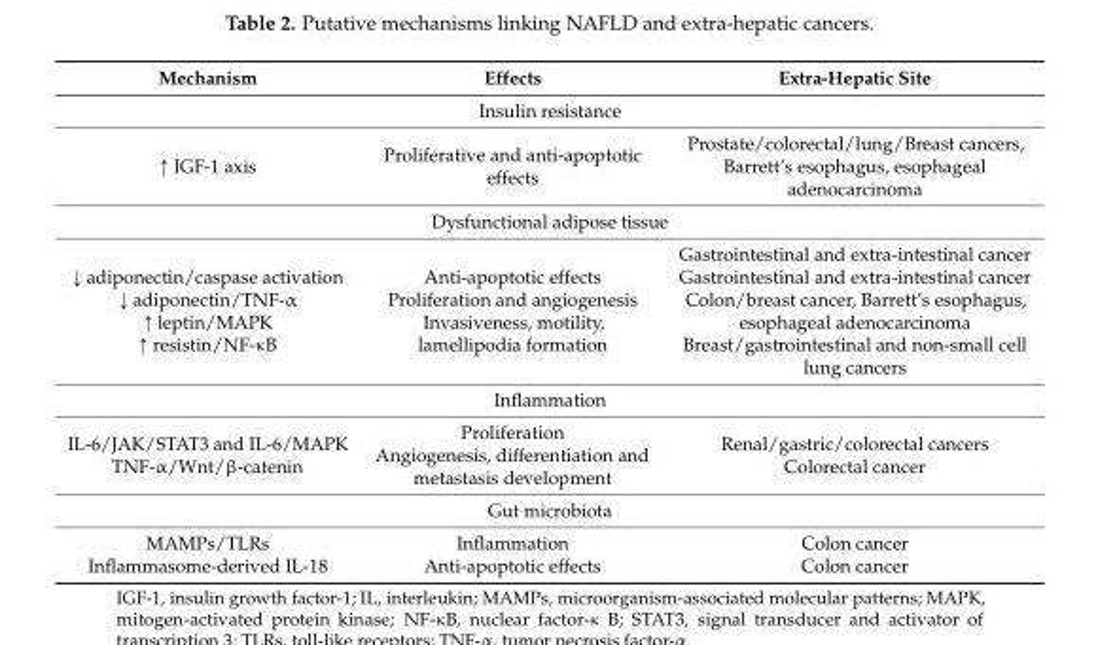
<table><thead><tr><td>Mechanism</td><td>Effects</td><td>Extra-Hepatic Site</td></tr></thead><tbody><tr><td colspan="3">Insulin resistance</td></tr><tr><td>↑ IGF-1 axis</td><td>Proliferative and anti-apoptotic effects</td><td>Prostate/colorectal/lung/Breast cancers, Barrett’s esophagus, esophageal adenocarcinoma</td></tr><tr><td colspan="3">Dysfunctional adipose tissue</td></tr><tr><td>↓ adiponectin/caspase activation ↓ adiponectin/TNF-α ↑ leptin/MAPK ↑ resistin/NF-κB</td><td>Anti-apoptotic effects Proliferation and angiogenesis Invasiveness, motility, lamellipodia formation</td><td>Gastrointestinal and extra-intestinal cancer Gastrointestinal and extra-intestinal cancer Colon/breast cancer, Barrett’s esophagus, esophageal adenocarcinoma Breast/gastrointestinal and non-small cell lung cancers</td></tr><tr><td colspan="3">Inflammation</td></tr><tr><td>IL-6/JAK/STAT3 and IL-6/MAPK TNF-α/Wnt/β-catenin</td><td>Proliferation Angiogenesis, differentiation and metastasis development</td><td>Renal/gastric/colorectal cancers Colorectal cancer</td></tr><tr><td colspan="3">Gut microbiota</td></tr><tr><td>MAMPs/TLRs Inflammasome-derived IL-18</td><td>Inflammation Anti-apoptotic effects</td><td>Colon cancer Colon cancer</td></tr></tbody></table>